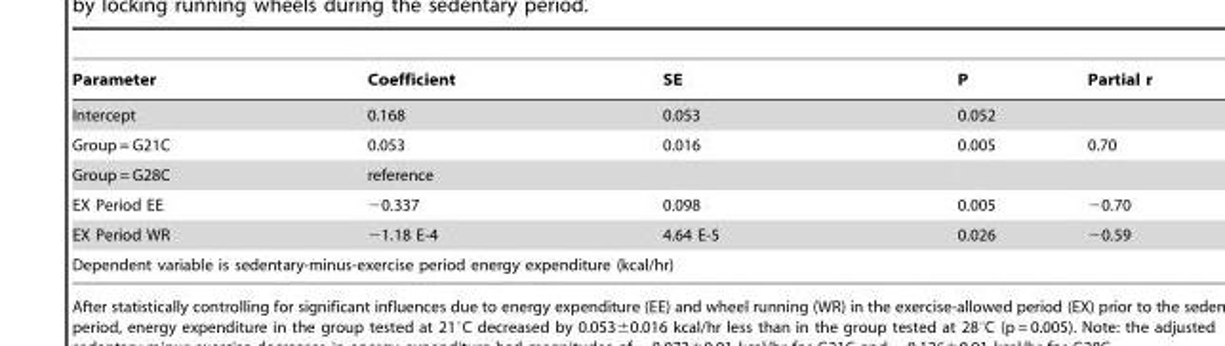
<table><thead><tr><td>Parameter</td><td>Coefficient</td><td>SE</td><td>P</td><td>Partial r</td></tr></thead><tbody><tr><td>Intercept</td><td>0.168</td><td>0.053</td><td>0.052</td><td></td></tr><tr><td>Group = G21C</td><td>0.053</td><td>0.016</td><td>0.005</td><td>0.70</td></tr><tr><td>Group = G28C</td><td>reference</td><td></td><td></td><td></td></tr><tr><td>EX Period EE</td><td>−0.337</td><td>0.098</td><td>0.005</td><td>−0.70</td></tr><tr><td>EX Period WR</td><td>−1.18 E-4</td><td>4.64 E-5</td><td>0.026</td><td>−0.59</td></tr><tr><td colspan="5">Dependent variable is sedentary-minus-exercise period energy expenditure (kcal/hr)</td></tr></tbody></table>